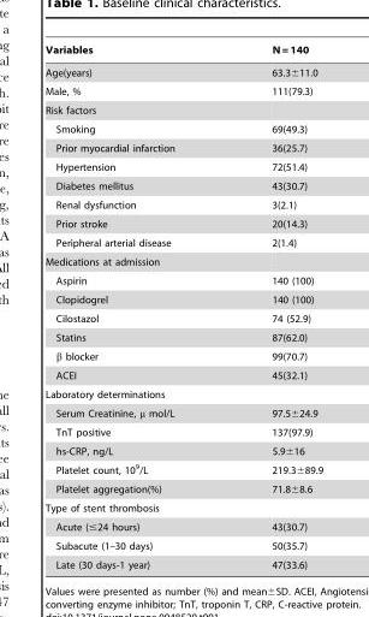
<table><thead><tr><td>Variables</td><td>N = 140</td></tr></thead><tbody><tr><td>Age(years)</td><td>63.3±11.0</td></tr><tr><td>Male, %</td><td>111(79.3)</td></tr><tr><td colspan="2">Risk factors</td></tr><tr><td>Smoking</td><td>69(49.3)</td></tr><tr><td>Prior myocardial infarction</td><td>36(25.7)</td></tr><tr><td>Hypertension</td><td>72(51.4)</td></tr><tr><td>Diabetes mellitus</td><td>43(30.7)</td></tr><tr><td>Renal dysfunction</td><td>3(2.1)</td></tr><tr><td>Prior stroke</td><td>20(14.3)</td></tr><tr><td>Peripheral arterial disease</td><td>2(1.4)</td></tr><tr><td colspan="2">Medications at admission</td></tr><tr><td>Aspirin</td><td>140 (100)</td></tr><tr><td>Clopidogrel</td><td>140 (100)</td></tr><tr><td>Cilostazol</td><td>74 (52.9)</td></tr><tr><td>Statins</td><td>87(62.0)</td></tr><tr><td>β blocker</td><td>99(70.7)</td></tr><tr><td>ACEI</td><td>45(32.1)</td></tr><tr><td colspan="2">Laboratory determinations</td></tr><tr><td>Serum Creatinine, μ mol/L</td><td>97.5±24.9</td></tr><tr><td>TnT positive</td><td>137(97.9)</td></tr><tr><td>hs-CRP, ng/L</td><td>5.9±16</td></tr><tr><td>Platelet count, 10<sup>9</sup>/L</td><td>219.3±89.9</td></tr><tr><td>Platelet aggregation(%)</td><td>71.8±8.6</td></tr><tr><td colspan="2">Type of stent thrombosis</td></tr><tr><td>Acute (≤24 hours)</td><td>43(30.7)</td></tr><tr><td>Subacute (1–30 days)</td><td>50(35.7)</td></tr><tr><td>Late (30 days-1 year)</td><td>47(33.6)</td></tr></tbody></table>